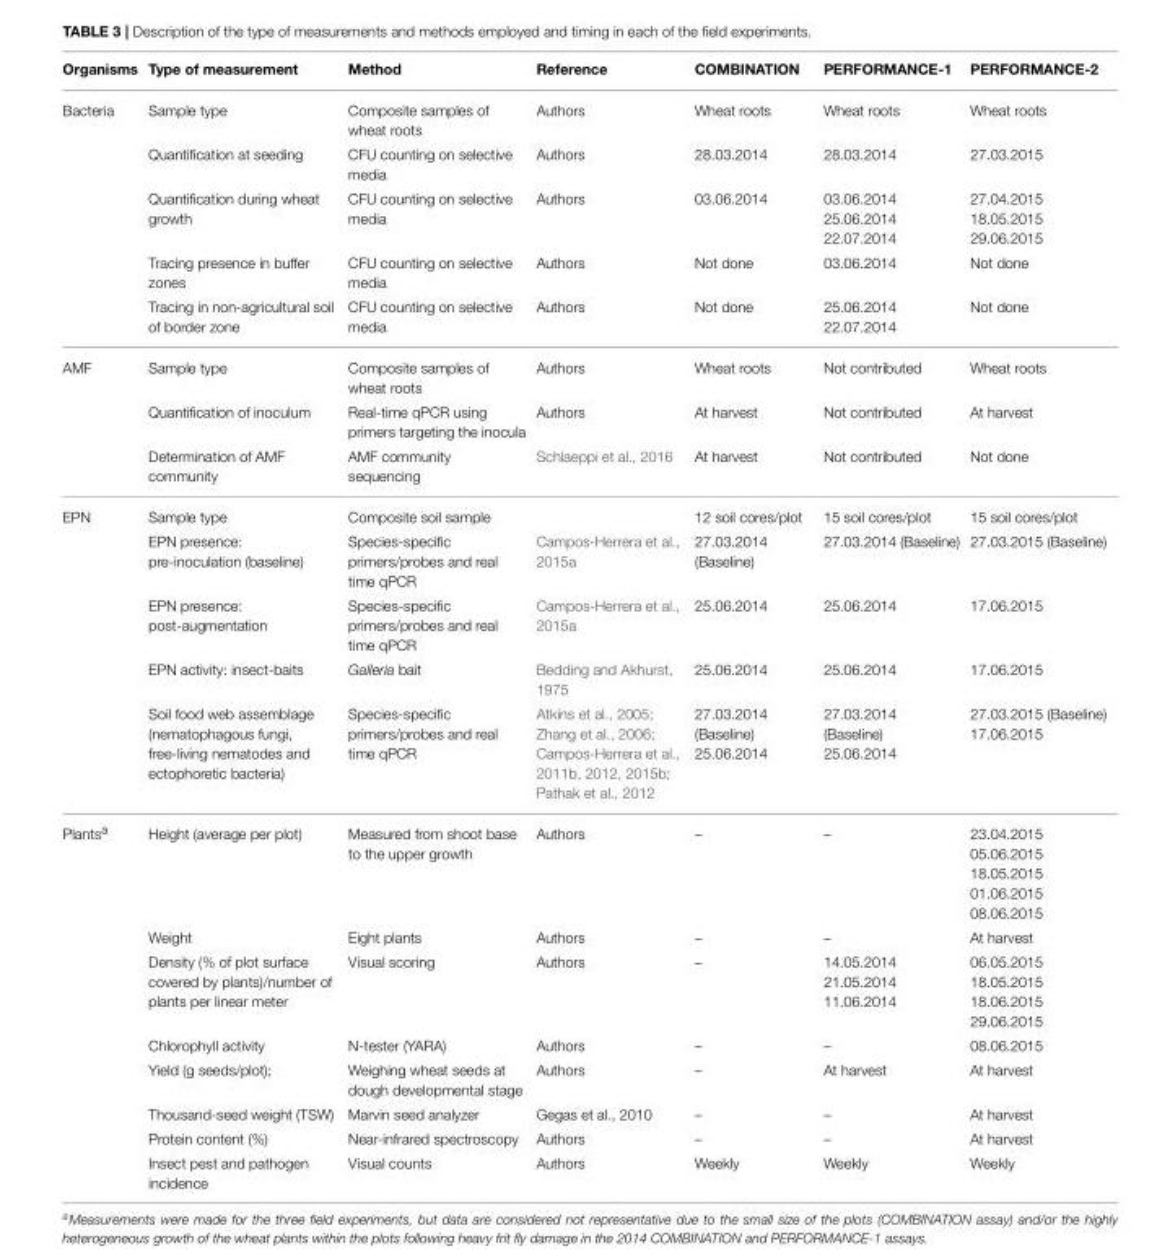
<table><thead><tr><td>Organisms</td><td>Type of measurement</td><td>Method</td><td>Reference</td><td>COMBINATION</td><td>PERFORMANCE-1</td><td>PERFORMANCE-2</td></tr></thead><tbody><tr><td rowspan="5">Bacteria</td><td>Sample type</td><td>Composite samples of wheat roots</td><td>Authors</td><td>Wheat roots</td><td>Wheat roots</td><td>Wheat roots</td></tr><tr><td>Quantification at seeding</td><td>CFU counting on selective media</td><td>Authors</td><td>28.03.2014</td><td>28.03.2014</td><td>27.03.2015</td></tr><tr><td>Quantification during wheat growth</td><td>CFU counting on selective media</td><td>Authors</td><td>03.06.2014</td><td>03.06.2014 25.06.2014 22.07.2014</td><td>27.04.2015 18.05.2015 29.06.2015</td></tr><tr><td>Tracing presence in buffer zones</td><td>CFU counting on selective media</td><td>Authors</td><td>Not done</td><td>03.06.2014</td><td>Not done</td></tr><tr><td>Tracing in non-agricultural soil of border zone</td><td>CFU counting on selective media</td><td>Authors</td><td>Not done</td><td>25.06.2014 22.07.2014</td><td>Not done</td></tr><tr><td rowspan="3">AMF</td><td>Sample type</td><td>Composite samples of wheat roots</td><td>Authors</td><td>Wheat roots</td><td>Not contributed</td><td>Wheat roots</td></tr><tr><td>Quantification of inoculum</td><td>Real-time qPCR using primers targeting the inocula</td><td>Authors</td><td>At harvest</td><td>Not contributed</td><td>At harvest</td></tr><tr><td>Determination of AMF community</td><td>AMF community sequencing</td><td>Schlaeppi et al., 2016</td><td>At harvest</td><td>Not contributed</td><td>Not done</td></tr><tr><td rowspan="5">EPN</td><td>Sample type</td><td>Composite soil sample</td><td></td><td>12 soil cores/plot</td><td>15 soil cores/plot</td><td>15 soil cores/plot</td></tr><tr><td>EPN presence: pre-inoculation (baseline)</td><td>Species-specific primers/probes and real time qPCR</td><td>Campos-Herrera et al., 2015a</td><td>27.03.2014 (Baseline)</td><td>27.03.2014 (Baseline)</td><td>27.03.2015 (Baseline)</td></tr><tr><td>EPN presence: post-augmentation</td><td>Species-specific primers/probes and real time qPCR</td><td>Campos-Herrera et al., 2015a</td><td>25.06.2014</td><td>25.06.2014</td><td>17.06.2015</td></tr><tr><td>EPN activity: insect-baits</td><td>Galleria bait</td><td>Bedding and Akhurst, 1975</td><td>25.06.2014</td><td>25.06.2014</td><td>17.06.2015</td></tr><tr><td>Soil food web assemblage (nematophagous fungi, free-living nematodes and ectophoretic bacteria)</td><td>Species-specific primers/probes and real time qPCR</td><td>Atkins et al., 2005; Zhang et al., 2006; Campos-Herrera et al., 2011b, 2012, 2015b; Pathak et al., 2012</td><td>27.03.2014 (Baseline) 25.06.2014</td><td>27.03.2014 (Baseline) 25.06.2014</td><td>27.03.2015 (Baseline) 17.06.2015</td></tr><tr><td rowspan="8">Plants<sup>a</sup></td><td>Height (average per plot)</td><td>Measured from shoot base to the upper growth</td><td>Authors</td><td>–</td><td>–</td><td>23.04.2015 05.06.2015 18.05.2015 01.06.2015 08.06.2015</td></tr><tr><td>Weight</td><td>Eight plants</td><td>Authors</td><td>–</td><td>–</td><td>At harvest</td></tr><tr><td>Density (% of plot surface covered by plants)/number of plants per linear meter</td><td>Visual scoring</td><td>Authors</td><td>–</td><td>14.05.2014 21.05.2014 11.06.2014</td><td>06.05.2015 18.05.2015 18.06.2015 29.06.2015</td></tr><tr><td>Chlorophyll activity</td><td>N-tester (YARA)</td><td>Authors</td><td>–</td><td>–</td><td>08.06.2015</td></tr><tr><td>Yield (g seeds/plot);</td><td>Weighing wheat seeds at dough developmental stage</td><td>Authors</td><td>–</td><td>At harvest</td><td>At harvest</td></tr><tr><td>Thousand-seed weight (TSW)</td><td>Marvin seed analyzer</td><td>Gegas et al., 2010</td><td>–</td><td>–</td><td>At harvest</td></tr><tr><td>Protein content (%)</td><td>Near-infrared spectroscopy</td><td>Authors</td><td>–</td><td>–</td><td>At harvest</td></tr><tr><td>Insect pest and pathogen incidence</td><td>Visual counts</td><td>Authors</td><td>Weekly</td><td>Weekly</td><td>Weekly</td></tr></tbody></table>